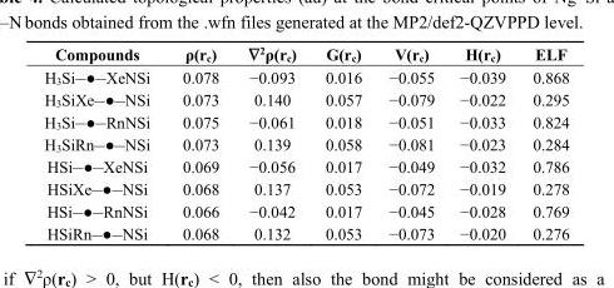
<table><thead><tr><td>Compounds</td><td>ρ(r<sub>c</sub>)</td><td>∇<sup>2</sup>ρ(r<sub>c</sub>)</td><td>G(r<sub>c</sub>)</td><td>V(r<sub>c</sub>)</td><td>H(r<sub>c</sub>)</td><td>ELF</td></tr></thead><tbody><tr><td>H<sub>3</sub>Si<sup>__</sup>●<sup>__</sup>XeNSi</td><td>0.078</td><td>−0.093</td><td>0.016</td><td>−0.055</td><td>−0.039</td><td>0.868</td></tr><tr><td>H<sub>3</sub>SiXe<sup>__</sup>●<sup>__</sup>NSi</td><td>0.073</td><td>0.140</td><td>0.057</td><td>−0.079</td><td>−0.022</td><td>0.295</td></tr><tr><td>H<sub>3</sub>Si<sup>__</sup>●<sup>__</sup>RnNSi</td><td>0.075</td><td>−0.061</td><td>0.018</td><td>−0.051</td><td>−0.033</td><td>0.824</td></tr><tr><td>H<sub>3</sub>SiRn<sup>__</sup>●<sup>__</sup>NSi</td><td>0.073</td><td>0.139</td><td>0.058</td><td>−0.081</td><td>−0.023</td><td>0.284</td></tr><tr><td>HSi<sup>__</sup>●<sup>__</sup>XeNSi</td><td>0.069</td><td>−0.056</td><td>0.017</td><td>−0.049</td><td>−0.032</td><td>0.786</td></tr><tr><td>HSiXe<sup>__</sup>●<sup>__</sup>NSi</td><td>0.068</td><td>0.137</td><td>0.053</td><td>−0.072</td><td>−0.019</td><td>0.278</td></tr><tr><td>HSi<sup>__</sup>●<sup>__</sup>RnNSi</td><td>0.066</td><td>−0.042</td><td>0.017</td><td>−0.045</td><td>−0.028</td><td>0.769</td></tr><tr><td>HSiRn<sup>__</sup>●<sup>__</sup>NSi</td><td>0.068</td><td>0.132</td><td>0.053</td><td>−0.073</td><td>−0.020</td><td>0.276</td></tr></tbody></table>